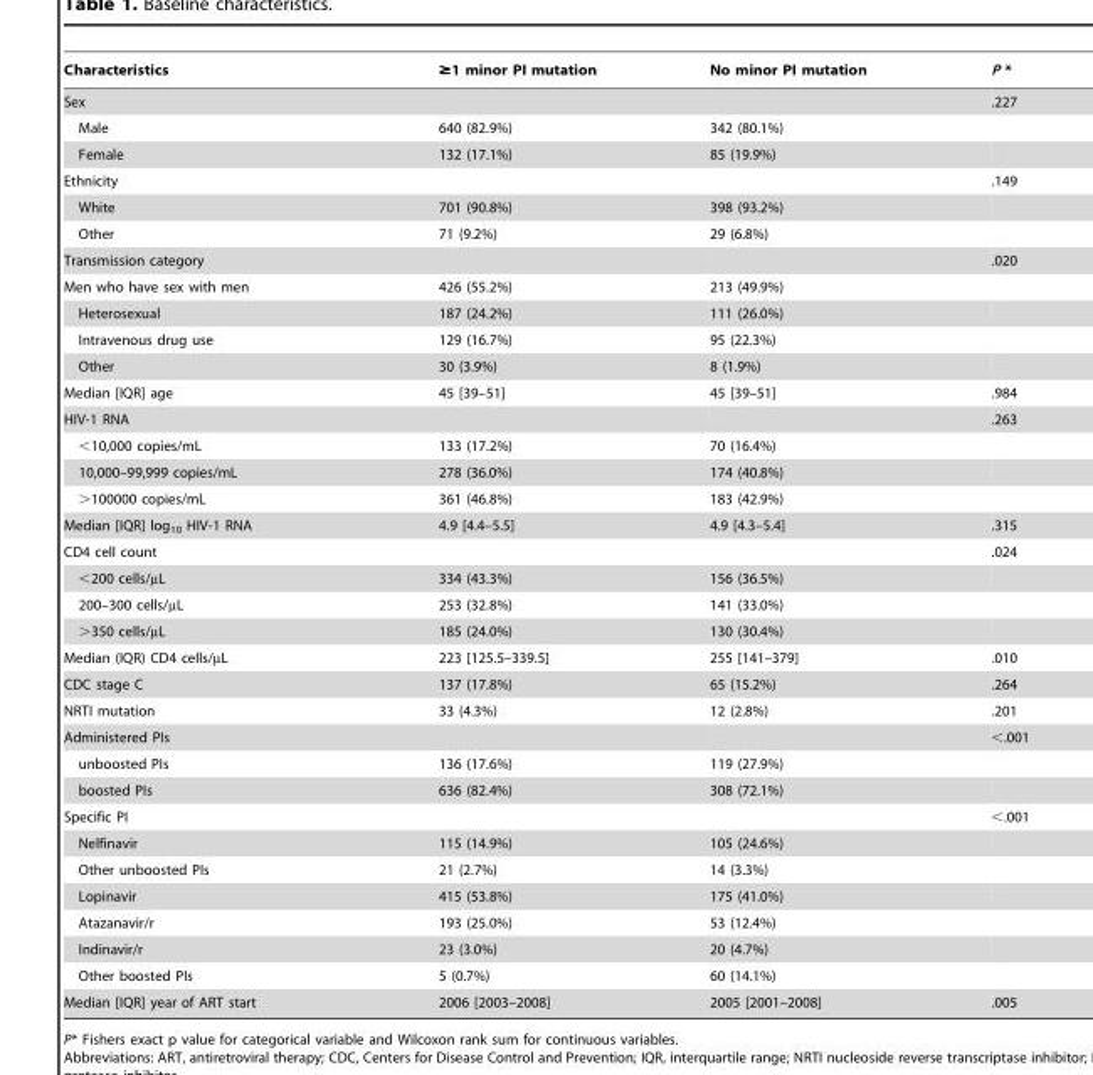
<table><thead><tr><td>Characteristics</td><td>≥1 minor PI mutation</td><td>No minor PI mutation</td><td>P *</td></tr></thead><tbody><tr><td>Sex</td><td></td><td></td><td>.227</td></tr><tr><td>Male</td><td>640 (82.9%)</td><td>342 (80.1%)</td><td></td></tr><tr><td>Female</td><td>132 (17.1%)</td><td>85 (19.9%)</td><td></td></tr><tr><td>Ethnicity</td><td></td><td></td><td>.149</td></tr><tr><td>White</td><td>701 (90.8%)</td><td>398 (93.2%)</td><td></td></tr><tr><td>Other</td><td>71 (9.2%)</td><td>29 (6.8%)</td><td></td></tr><tr><td>Transmission category</td><td></td><td></td><td>.020</td></tr><tr><td>Men who have sex with men</td><td>426 (55.2%)</td><td>213 (49.9%)</td><td></td></tr><tr><td>Heterosexual</td><td>187 (24.2%)</td><td>111 (26.0%)</td><td></td></tr><tr><td>Intravenous drug use</td><td>129 (16.7%)</td><td>95 (22.3%)</td><td></td></tr><tr><td>Other</td><td>30 (3.9%)</td><td>8 (1.9%)</td><td></td></tr><tr><td>Median [IQR] age</td><td>45 [39–51]</td><td>45 [39–51]</td><td>.984</td></tr><tr><td>HIV-1 RNA</td><td></td><td></td><td>.263</td></tr><tr><td>&lt;10,000 copies/mL</td><td>133 (17.2%)</td><td>70 (16.4%)</td><td></td></tr><tr><td>10,000–99,999 copies/mL</td><td>278 (36.0%)</td><td>174 (40.8%)</td><td></td></tr><tr><td>&gt;100000 copies/mL</td><td>361 (46.8%)</td><td>183 (42.9%)</td><td></td></tr><tr><td>Median [IQR] log<sub>10</sub> HIV-1 RNA</td><td>4.9 [4.4–5.5]</td><td>4.9 [4.3–5.4]</td><td>.315</td></tr><tr><td>CD4 cell count</td><td></td><td></td><td>.024</td></tr><tr><td>&lt;200 cells/µL</td><td>334 (43.3%)</td><td>156 (36.5%)</td><td></td></tr><tr><td>200–300 cells/µL</td><td>253 (32.8%)</td><td>141 (33.0%)</td><td></td></tr><tr><td>&gt;350 cells/µL</td><td>185 (24.0%)</td><td>130 (30.4%)</td><td></td></tr><tr><td>Median (IQR) CD4 cells/µL</td><td>223 [125.5–339.5]</td><td>255 [141–379]</td><td>.010</td></tr><tr><td>CDC stage C</td><td>137 (17.8%)</td><td>65 (15.2%)</td><td>.264</td></tr><tr><td>NRTI mutation</td><td>33 (4.3%)</td><td>12 (2.8%)</td><td>.201</td></tr><tr><td>Administered PIs</td><td></td><td></td><td>&lt;.001</td></tr><tr><td>unboosted PIs</td><td>136 (17.6%)</td><td>119 (27.9%)</td><td></td></tr><tr><td>boosted PIs</td><td>636 (82.4%)</td><td>308 (72.1%)</td><td></td></tr><tr><td>Specific PI</td><td></td><td></td><td>&lt;.001</td></tr><tr><td>Nelfinavir</td><td>115 (14.9%)</td><td>105 (24.6%)</td><td></td></tr><tr><td>Other unboosted PIs</td><td>21 (2.7%)</td><td>14 (3.3%)</td><td></td></tr><tr><td>Lopinavir</td><td>415 (53.8%)</td><td>175 (41.0%)</td><td></td></tr><tr><td>Atazanavir/r</td><td>193 (25.0%)</td><td>53 (12.4%)</td><td></td></tr><tr><td>Indinavir/r</td><td>23 (3.0%)</td><td>20 (4.7%)</td><td></td></tr><tr><td>Other boosted PIs</td><td>5 (0.7%)</td><td>60 (14.1%)</td><td></td></tr><tr><td>Median [IQR] year of ART start</td><td>2006 [2003–2008]</td><td>2005 [2001–2008]</td><td>.005</td></tr></tbody></table>